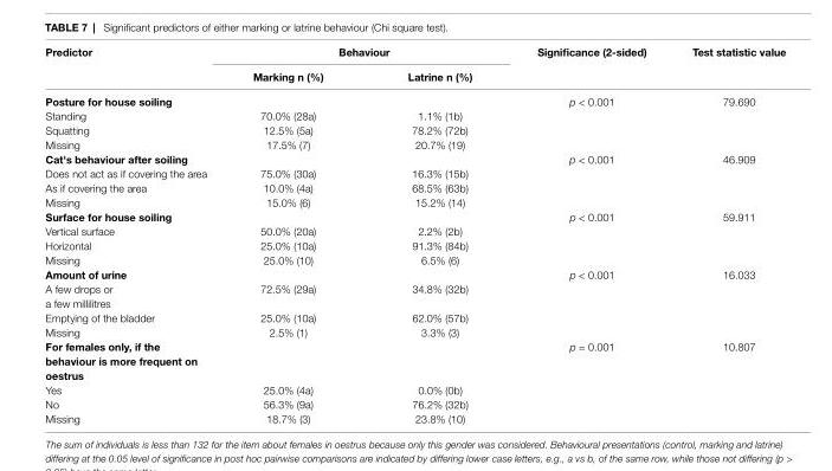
<table><thead><tr><td rowspan="2">Predictor</td><td colspan="2">Behaviour</td><td rowspan="2">significance (2-sided)</td><td rowspan="2">Test statistic value</td></tr><tr><td>Marking n (%)</td><td>latrine n (%)</td></tr></thead><tbody><tr><td>Posture for house soiling</td><td></td><td></td><td>p &lt; 0.001</td><td>79.690</td></tr><tr><td>Standing</td><td>70.0% (28a)</td><td>1.1% (1b)</td><td></td><td></td></tr><tr><td>Squatting</td><td>12.5% (5a)</td><td>78.2% (72b)</td><td></td><td></td></tr><tr><td>Missing</td><td>17.5% (7)</td><td>20.7% (19)</td><td></td><td></td></tr><tr><td>cat&#x27;s behaviour after soiling</td><td></td><td></td><td>p &lt; 0.001</td><td>46.909</td></tr><tr><td>Does not act as if covering the area</td><td>75.0% (30a)</td><td>16.3% (15b)</td><td></td><td></td></tr><tr><td>As if covering the area</td><td>10.0% (4a)</td><td>68.5% (63b)</td><td></td><td></td></tr><tr><td>Missing</td><td>15.0% (6)</td><td>15.2% (14)</td><td></td><td></td></tr><tr><td>surface for house soiling</td><td></td><td></td><td>p &lt; 0.001</td><td>59.911</td></tr><tr><td>Vertical surface</td><td>50.0% (20a)</td><td>2.2% (2b)</td><td></td><td></td></tr><tr><td>Horizontal</td><td>25.0% (10a)</td><td>91.3% (84b)</td><td></td><td></td></tr><tr><td>Missing</td><td>25.0% (10)</td><td>6.5% (6)</td><td></td><td></td></tr><tr><td>amount of urine</td><td></td><td></td><td>p &lt; 0.001</td><td>16.033</td></tr><tr><td>A few drops or a few millilitres</td><td>72.5% (29a)</td><td>34.8% (32b)</td><td></td><td></td></tr><tr><td>Emptying of the bladder</td><td>25.0% (10a)</td><td>62.0% (57b)</td><td></td><td></td></tr><tr><td>Missing</td><td>2.5% (1)</td><td>3.3% (3)</td><td></td><td></td></tr><tr><td>For females only, if the behaviour is more frequent on oestrus</td><td></td><td></td><td>p = 0.001</td><td>10.807</td></tr><tr><td>Yes</td><td>25.0% (4a)</td><td>0.0% (0b)</td><td></td><td></td></tr><tr><td>No</td><td>56.3% (9a)</td><td>76.2% (32b)</td><td></td><td></td></tr><tr><td>Missing</td><td>18.7% (3)</td><td>23.8% (10)</td><td></td><td></td></tr></tbody></table>